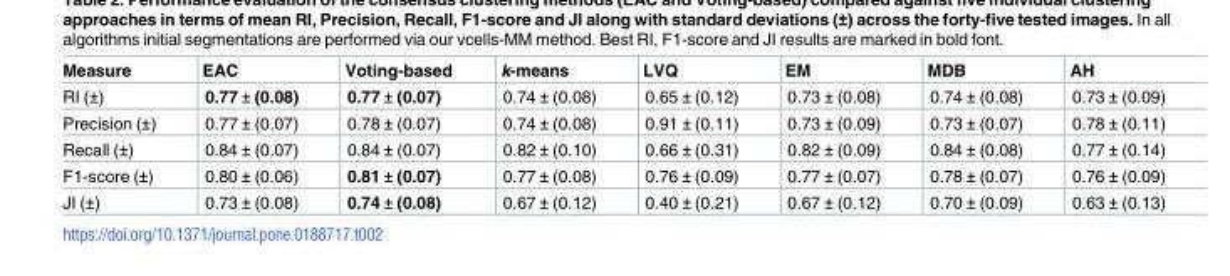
<table><thead><tr><td>Measure</td><td>EAC</td><td>Voting-based</td><td>k-means</td><td>LVQ</td><td>EM</td><td>MDB</td><td>AH</td></tr></thead><tbody><tr><td>RI (±)</td><td>0.77 ± (0.08)</td><td>0.77 ± (0.07)</td><td>0.74 ± (0.08)</td><td>0.65 ± (0.12)</td><td>0.73 ± (0.08)</td><td>0.74 ± (0.08)</td><td>0.73 ± (0.09)</td></tr><tr><td>Precision (±)</td><td>0.77 ± (0.07)</td><td>0.78 ± (0.07)</td><td>0.74 ± (0.08)</td><td>0.91 ± (0.11)</td><td>0.73 ± (0.09)</td><td>0.73 ± (0.07)</td><td>0.78 ± (0.11)</td></tr><tr><td>Recall (±)</td><td>0.84 ± (0.07)</td><td>0.84 ± (0.07)</td><td>0.82 ± (0.10)</td><td>0.66 ± (0.31)</td><td>0.82 ± (0.09)</td><td>0.84 ± (0.08)</td><td>0.77 ± (0.14)</td></tr><tr><td>F1-score (±)</td><td>0.80 ± (0.06)</td><td>0.81 ± (0.07)</td><td>0.77 ± (0.08)</td><td>0.76 ± (0.09)</td><td>0.77 ± (0.07)</td><td>0.78 ± (0.07)</td><td>0.76 ± (0.09)</td></tr><tr><td>JI (±)</td><td>0.73 ± (0.08)</td><td>0.74 ± (0.08)</td><td>0.67 ± (0.12)</td><td>0.40 ± (0.21)</td><td>0.67 ± (0.12)</td><td>0.70 ± (0.09)</td><td>0.63 ± (0.13)</td></tr></tbody></table>